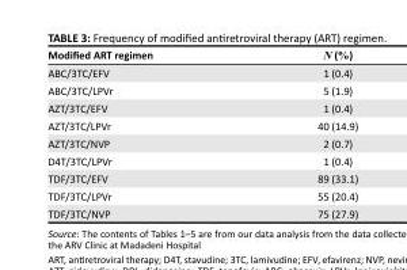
<table><thead><tr><td>Modified ART regimen</td><td>N (%)</td></tr></thead><tbody><tr><td>ABC/3TC/EFV</td><td>1 (0.4)</td></tr><tr><td>ABC/3TC/LPVr</td><td>5 (1.9)</td></tr><tr><td>AZT/3TC/EFV</td><td>1 (0.4)</td></tr><tr><td>AZT/3TC/LPVr</td><td>40 (14.9)</td></tr><tr><td>AZT/3TC/NVP</td><td>2 (0.7)</td></tr><tr><td>D4T/3TC/LPVr</td><td>1 (0.4)</td></tr><tr><td>TDF/3TC/EFV</td><td>89 (33.1)</td></tr><tr><td>TDF/3TC/LPVr</td><td>55 (20.4)</td></tr><tr><td>TDF/3TC/NVP</td><td>75 (27.9)</td></tr></tbody></table>